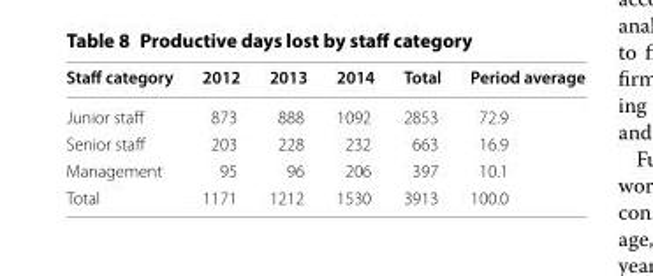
<table><thead><tr><td>Staff category</td><td>2012</td><td>2013</td><td>2014</td><td>Total</td><td>Period average</td></tr></thead><tbody><tr><td>Junior staff</td><td>873</td><td>888</td><td>1092</td><td>2853</td><td>72.9</td></tr><tr><td>Senior staff</td><td>203</td><td>228</td><td>232</td><td>663</td><td>16.9</td></tr><tr><td>Management</td><td>95</td><td>96</td><td>206</td><td>397</td><td>10.1</td></tr><tr><td>Total</td><td>1171</td><td>1212</td><td>1530</td><td>3913</td><td>100.0</td></tr></tbody></table>